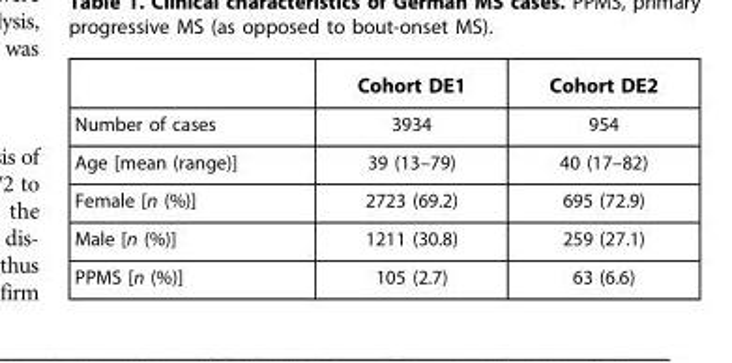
<table><thead><tr><td></td><td>Cohort DE1</td><td>Cohort DE2</td></tr></thead><tbody><tr><td>Number of cases</td><td>3934</td><td>954</td></tr><tr><td>Age [mean (range)]</td><td>39 (13–79)</td><td>40 (17–82)</td></tr><tr><td>Female [n (%)]</td><td>2723 (69.2)</td><td>695 (72.9)</td></tr><tr><td>Male [n (%)]</td><td>1211 (30.8)</td><td>259 (27.1)</td></tr><tr><td>PPMS [n (%)]</td><td>105 (2.7)</td><td>63 (6.6)</td></tr></tbody></table>